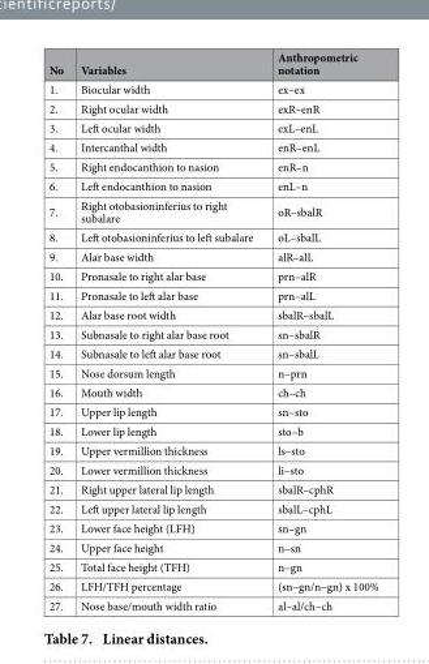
<table><thead><tr><td>No</td><td>Variables</td><td>Anthropometric notation</td></tr></thead><tbody><tr><td>1.</td><td>Biocular width</td><td>ex–ex</td></tr><tr><td>2.</td><td>Right ocular width</td><td>exR–enR</td></tr><tr><td>3.</td><td>Left ocular width</td><td>exL–enL</td></tr><tr><td>4.</td><td>Intercanthal width</td><td>enR–enL</td></tr><tr><td>5.</td><td>Right endocanthion to nasion</td><td>enR–n</td></tr><tr><td>6.</td><td>Left endocanthion to nasion</td><td>enL–n</td></tr><tr><td>7.</td><td>Right otobasioninferius to right subalare</td><td>oR–sbalR</td></tr><tr><td>8.</td><td>Left otobasioninferius to left subalare</td><td>oL–sbalL</td></tr><tr><td>9.</td><td>Alar base width</td><td>alR–alL</td></tr><tr><td>10.</td><td>Pronasale to right alar base</td><td>prn–alR</td></tr><tr><td>11.</td><td>Pronasale to left alar base</td><td>prn–alL</td></tr><tr><td>12.</td><td>Alar base root width</td><td>sbalR–sbalL</td></tr><tr><td>13.</td><td>Subnasale to right alar base root</td><td>sn–sbalR</td></tr><tr><td>14.</td><td>Subnasale to left alar base root</td><td>sn–sbalL</td></tr><tr><td>15.</td><td>Nose dorsum length</td><td>n–prn</td></tr><tr><td>16.</td><td>Mouth width</td><td>ch–ch</td></tr><tr><td>17.</td><td>Upper lip length</td><td>sn–sto</td></tr><tr><td>18.</td><td>Lower lip length</td><td>sto–b</td></tr><tr><td>19.</td><td>Upper vermillion thickness</td><td>ls–sto</td></tr><tr><td>20.</td><td>Lower vermillion thickness</td><td>li–sto</td></tr><tr><td>21.</td><td>Right upper lateral lip length</td><td>sbalR–cphR</td></tr><tr><td>22.</td><td>Left upper lateral lip length</td><td>sbalL–cphL</td></tr><tr><td>23.</td><td>Lower face height (LFH)</td><td>sn–gn</td></tr><tr><td>24.</td><td>Upper face height</td><td>n–sn</td></tr><tr><td>25.</td><td>Total face height (TFH)</td><td>n–gn</td></tr><tr><td>26.</td><td>LFH/TFH percentage</td><td>(sn–gn/n–gn) x 100%</td></tr><tr><td>27.</td><td>Nose base/mouth width ratio</td><td>al–al/ch–ch</td></tr></tbody></table>